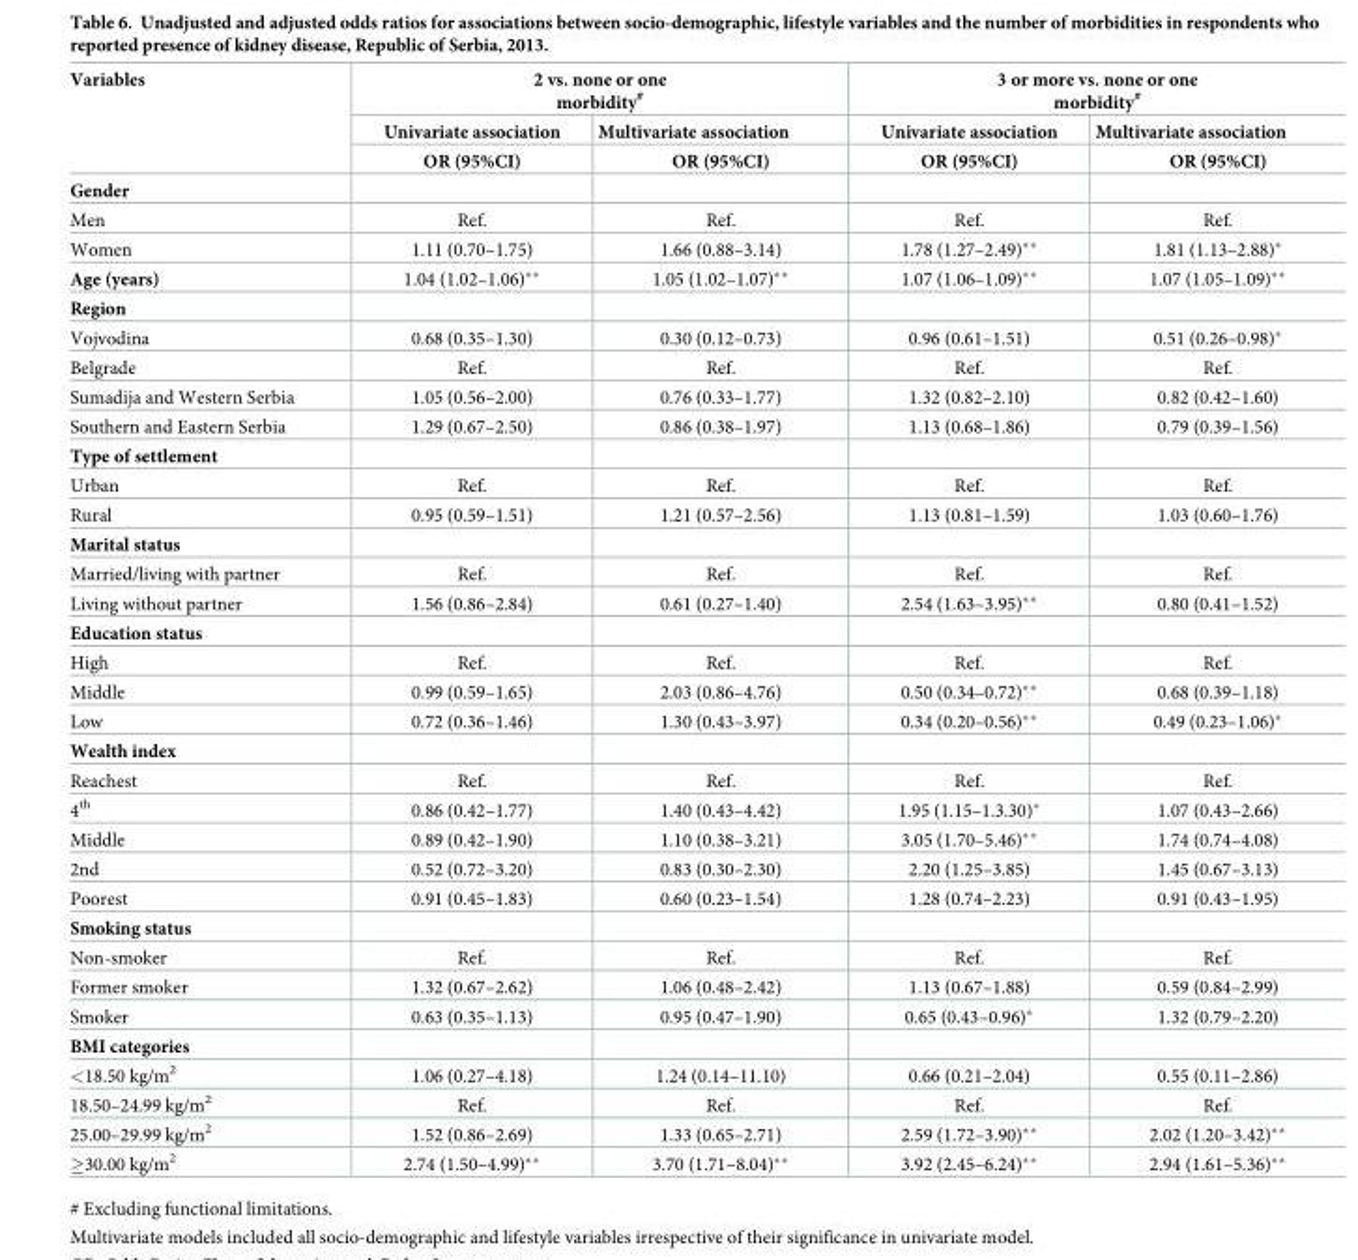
<table><thead><tr><td rowspan="3">Variables</td><td colspan="2">2 vs. none or one morbidity<sup>#</sup></td><td colspan="2">3 or more vs. none or one morbidity<sup>#</sup></td></tr><tr><td rowspan="2">Univariate association OR (95%CI)</td><td rowspan="2">Multivariate association OR (95%CI)</td><td rowspan="2">Univariate association OR (95%CI)</td><td rowspan="2">Multivariate association OR (95%CI)</td></tr><tr></tr></thead><tbody><tr><td colspan="5">Gender</td></tr><tr><td>Men</td><td>Ref.</td><td>Ref.</td><td>Ref.</td><td>Ref.</td></tr><tr><td>Women</td><td>1.11 (0.70–1.75)</td><td>1.66 (0.88–3.14)</td><td>1.78 (1.27–2.49)**</td><td>1.81 (1.13–2.88)*</td></tr><tr><td>Age (years)</td><td>1.04 (1.02–1.06)**</td><td>1.05 (1.02–1.07)**</td><td>1.07 (1.06–1.09)**</td><td>1.07 (1.05–1.09)**</td></tr><tr><td colspan="5">Region</td></tr><tr><td>Vojvodina</td><td>0.68 (0.35–1.30)</td><td>0.30 (0.12–0.73)</td><td>0.96 (0.61–1.51)</td><td>0.51 (0.26–0.98)*</td></tr><tr><td>Belgrade</td><td>Ref.</td><td>Ref.</td><td>Ref.</td><td>Ref.</td></tr><tr><td>Sumadija and Western Serbia</td><td>1.05 (0.56–2.00)</td><td>0.76 (0.33–1.77)</td><td>1.32 (0.82–2.10)</td><td>0.82 (0.42–1.60)</td></tr><tr><td>Southern and Eastern Serbia</td><td>1.29 (0.67–2.50)</td><td>0.86 (0.38–1.97)</td><td>1.13 (0.68–1.86)</td><td>0.79 (0.39–1.56)</td></tr><tr><td colspan="5">Type of settlement</td></tr><tr><td>Urban</td><td>Ref.</td><td>Ref.</td><td>Ref.</td><td>Ref.</td></tr><tr><td>Rural</td><td>0.95 (0.59–1.51)</td><td>1.21 (0.57–2.56)</td><td>1.13 (0.81–1.59)</td><td>1.03 (0.60–1.76)</td></tr><tr><td colspan="5">Marital status</td></tr><tr><td>Married/living with partner</td><td>Ref.</td><td>Ref.</td><td>Ref.</td><td>Ref.</td></tr><tr><td>Living without partner</td><td>1.56 (0.86–2.84)</td><td>0.61 (0.27–1.40)</td><td>2.54 (1.63–3.95)**</td><td>0.80 (0.41–1.52)</td></tr><tr><td colspan="5">Education status</td></tr><tr><td>High</td><td>Ref.</td><td>Ref.</td><td>Ref.</td><td>Ref.</td></tr><tr><td>Middle</td><td>0.99 (0.59–1.65)</td><td>2.03 (0.86–4.76)</td><td>0.50 (0.34–0.72)**</td><td>0.68 (0.39–1.18)</td></tr><tr><td>Low</td><td>0.72 (0.36–1.46)</td><td>1.30 (0.43–3.97)</td><td>0.34 (0.20–0.56)**</td><td>0.49 (0.23–1.06)*</td></tr><tr><td colspan="5">Wealth index</td></tr><tr><td>Reachest</td><td>Ref.</td><td>Ref.</td><td>Ref.</td><td>Ref.</td></tr><tr><td>4<sup>th</sup></td><td>0.86 (0.42–1.77)</td><td>1.40 (0.43–4.42)</td><td>1.95 (1.15–1.3.30)*</td><td>1.07 (0.43–2.66)</td></tr><tr><td>Middle</td><td>0.89 (0.42–1.90)</td><td>1.10 (0.38–3.21)</td><td>3.05 (1.70–5.46)**</td><td>1.74 (0.74–4.08)</td></tr><tr><td>2nd</td><td>0.52 (0.72–3.20)</td><td>0.83 (0.30–2.30)</td><td>2.20 (1.25–3.85)</td><td>1.45 (0.67–3.13)</td></tr><tr><td>Poorest</td><td>0.91 (0.45–1.83)</td><td>0.60 (0.23–1.54)</td><td>1.28 (0.74–2.23)</td><td>0.91 (0.43–1.95)</td></tr><tr><td colspan="5">Smoking status</td></tr><tr><td>Non-smoker</td><td>Ref.</td><td>Ref.</td><td>Ref.</td><td>Ref.</td></tr><tr><td>Former smoker</td><td>1.32 (0.67–2.62)</td><td>1.06 (0.48–2.42)</td><td>1.13 (0.67–1.88)</td><td>0.59 (0.84–2.99)</td></tr><tr><td>Smoker</td><td>0.63 (0.35–1.13)</td><td>0.95 (0.47–1.90)</td><td>0.65 (0.43–0.96)*</td><td>1.32 (0.79–2.20)</td></tr><tr><td colspan="5">BMI categories</td></tr><tr><td>&lt;18.50 kg/m<sup>2</sup></td><td>1.06 (0.27–4.18)</td><td>1.24 (0.14–11.10)</td><td>0.66 (0.21–2.04)</td><td>0.55 (0.11–2.86)</td></tr><tr><td>18.50–24.99 kg/m<sup>2</sup></td><td>Ref.</td><td>Ref.</td><td>Ref.</td><td>Ref.</td></tr><tr><td>25.00–29.99 kg/m<sup>2</sup></td><td>1.52 (0.86–2.69)</td><td>1.33 (0.65–2.71)</td><td>2.59 (1.72–3.90)**</td><td>2.02 (1.20–3.42)**</td></tr><tr><td>≥30.00 kg/m<sup>2</sup></td><td>2.74 (1.50–4.99)**</td><td>3.70 (1.71–8.04)**</td><td>3.92 (2.45–6.24)**</td><td>2.94 (1.61–5.36)**</td></tr></tbody></table>